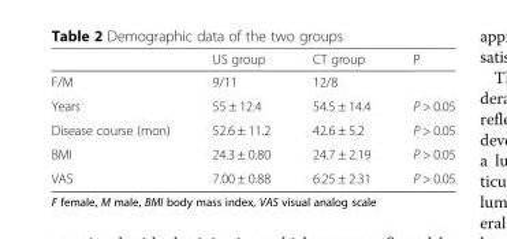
<table><thead><tr><td></td><td>US group</td><td>CT group</td><td>P</td></tr></thead><tbody><tr><td>F/M</td><td>9/11</td><td>12/8</td><td></td></tr><tr><td>Years</td><td>55 ± 12.4</td><td>54.5 ± 14.4</td><td>P &gt; 0.05</td></tr><tr><td>Disease course (mon)</td><td>52.6 ± 11.2</td><td>42.6 ± 5.2</td><td>P &gt; 0.05</td></tr><tr><td>BMI</td><td>24.3 ± 0.80</td><td>24.7 ± 2.19</td><td>P &gt; 0.05</td></tr><tr><td>VAS</td><td>7.00 ± 0.88</td><td>6.25 ± 2.31</td><td>P &gt; 0.05</td></tr></tbody></table>